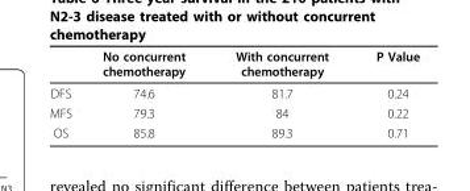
<table><thead><tr><td></td><td>No concurrent chemotherapy</td><td>With concurrent chemotherapy</td><td>P Value</td></tr></thead><tbody><tr><td>DFS</td><td>74.6</td><td>81.7</td><td>0.24</td></tr><tr><td>MFS</td><td>79.3</td><td>84</td><td>0.22</td></tr><tr><td>OS</td><td>85.8</td><td>89.3</td><td>0.71</td></tr></tbody></table>